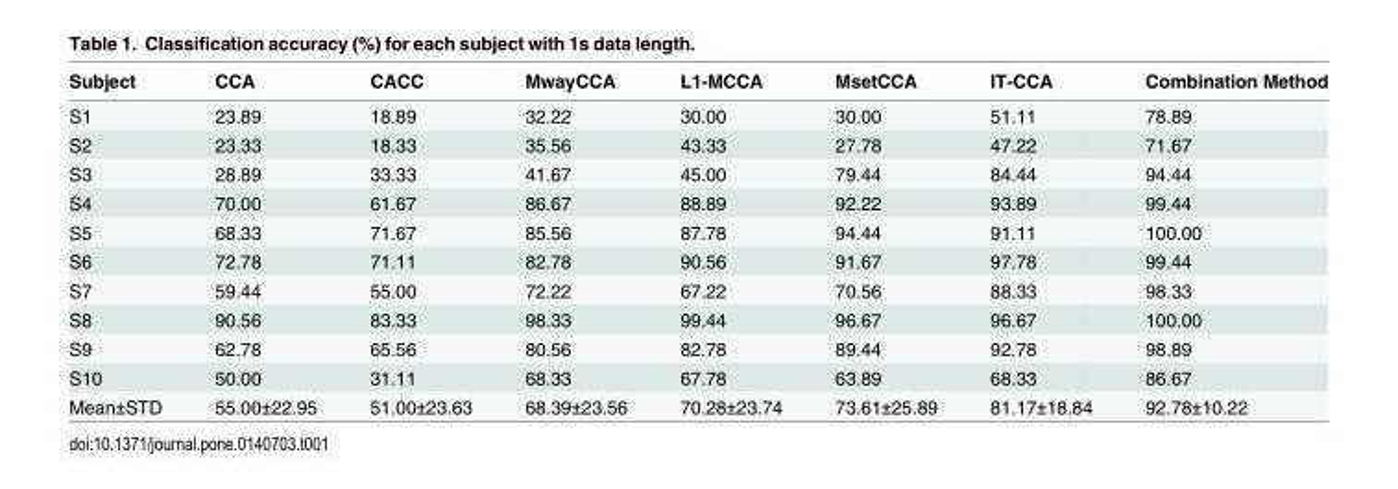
<table><thead><tr><td>Subject</td><td>CCA</td><td>CACC</td><td>MwayCCA</td><td>L1-MCCA</td><td>MsetCCA</td><td>IT-CCA</td><td>Combination Method</td></tr></thead><tbody><tr><td>S1</td><td>23.89</td><td>18.89</td><td>32.22</td><td>30.00</td><td>30.00</td><td>51.11</td><td>78.89</td></tr><tr><td>S2</td><td>23.33</td><td>18.33</td><td>35.56</td><td>43.33</td><td>27.78</td><td>47.22</td><td>71.67</td></tr><tr><td>S3</td><td>28.89</td><td>33.33</td><td>41.67</td><td>45.00</td><td>79.44</td><td>84.44</td><td>94.44</td></tr><tr><td>S4</td><td>70.00</td><td>61.67</td><td>86.67</td><td>88.89</td><td>92.22</td><td>93.89</td><td>99.44</td></tr><tr><td>S5</td><td>68.33</td><td>71.67</td><td>85.56</td><td>87.78</td><td>94.44</td><td>91.11</td><td>100.00</td></tr><tr><td>S6</td><td>72.78</td><td>71.11</td><td>82.78</td><td>90.56</td><td>91.67</td><td>97.78</td><td>99.44</td></tr><tr><td>S7</td><td>59.44</td><td>55.00</td><td>72.22</td><td>67.22</td><td>70.56</td><td>88.33</td><td>98.33</td></tr><tr><td>S8</td><td>90.56</td><td>83.33</td><td>98.33</td><td>99.44</td><td>96.67</td><td>96.67</td><td>100.00</td></tr><tr><td>S9</td><td>62.78</td><td>65.56</td><td>80.56</td><td>82.78</td><td>89.44</td><td>92.78</td><td>98.89</td></tr><tr><td>S10</td><td>50.00</td><td>31.11</td><td>68.33</td><td>67.78</td><td>63.89</td><td>68.33</td><td>86.67</td></tr><tr><td>Mean±STD</td><td>55.00±22.95</td><td>51.00±23.63</td><td>68.39±23.56</td><td>70.28±23.74</td><td>73.61±25.89</td><td>81.17±18.84</td><td>92.78±10.22</td></tr></tbody></table>